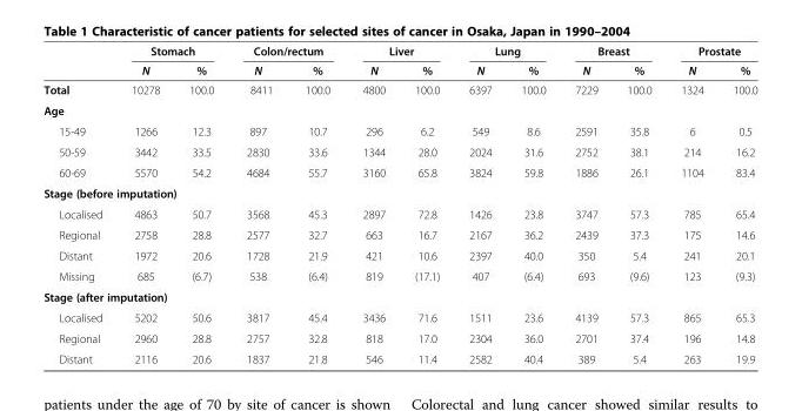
<table><thead><tr><td rowspan="2"></td><td colspan="2">Stomach</td><td colspan="2">Colon/rectum</td><td colspan="2">Liver</td><td colspan="2">Lung</td><td colspan="2">Breast</td><td colspan="2">Prostate</td></tr><tr><td>N</td><td>%</td><td>N</td><td>%</td><td>N</td><td>%</td><td>N</td><td>%</td><td>N</td><td>%</td><td>N</td><td>%</td></tr></thead><tbody><tr><td>Total</td><td>10278</td><td>100.0</td><td>8411</td><td>100.0</td><td>4800</td><td>100.0</td><td>6397</td><td>100.0</td><td>7229</td><td>100.0</td><td>1324</td><td>100.0</td></tr><tr><td colspan="13">Age</td></tr><tr><td>15-49</td><td>1266</td><td>12.3</td><td>897</td><td>10.7</td><td>296</td><td>6.2</td><td>549</td><td>8.6</td><td>2591</td><td>35.8</td><td>6</td><td>0.5</td></tr><tr><td>50-59</td><td>3442</td><td>33.5</td><td>2830</td><td>33.6</td><td>1344</td><td>28.0</td><td>2024</td><td>31.6</td><td>2752</td><td>38.1</td><td>214</td><td>16.2</td></tr><tr><td>60-69</td><td>5570</td><td>54.2</td><td>4684</td><td>55.7</td><td>3160</td><td>65.8</td><td>3824</td><td>59.8</td><td>1886</td><td>26.1</td><td>1104</td><td>83.4</td></tr><tr><td colspan="13">Stage (before imputation)</td></tr><tr><td>Localised</td><td>4863</td><td>50.7</td><td>3568</td><td>45.3</td><td>2897</td><td>72.8</td><td>1426</td><td>23.8</td><td>3747</td><td>57.3</td><td>785</td><td>65.4</td></tr><tr><td>Regional</td><td>2758</td><td>28.8</td><td>2577</td><td>32.7</td><td>663</td><td>16.7</td><td>2167</td><td>36.2</td><td>2439</td><td>37.3</td><td>175</td><td>14.6</td></tr><tr><td>Distant</td><td>1972</td><td>20.6</td><td>1728</td><td>21.9</td><td>421</td><td>10.6</td><td>2397</td><td>40.0</td><td>350</td><td>5.4</td><td>241</td><td>20.1</td></tr><tr><td>Missing</td><td>685</td><td>(6.7)</td><td>538</td><td>(6.4)</td><td>819</td><td>(17.1)</td><td>407</td><td>(6.4)</td><td>693</td><td>(9.6)</td><td>123</td><td>(9.3)</td></tr><tr><td colspan="13">Stage (after imputation)</td></tr><tr><td>Localised</td><td>5202</td><td>50.6</td><td>3817</td><td>45.4</td><td>3436</td><td>71.6</td><td>1511</td><td>23.6</td><td>4139</td><td>57.3</td><td>865</td><td>65.3</td></tr><tr><td>Regional</td><td>2960</td><td>28.8</td><td>2757</td><td>32.8</td><td>818</td><td>17.0</td><td>2304</td><td>36.0</td><td>2701</td><td>37.4</td><td>196</td><td>14.8</td></tr><tr><td>Distant</td><td>2116</td><td>20.6</td><td>1837</td><td>21.8</td><td>546</td><td>11.4</td><td>2582</td><td>40.4</td><td>389</td><td>5.4</td><td>263</td><td>19.9</td></tr></tbody></table>